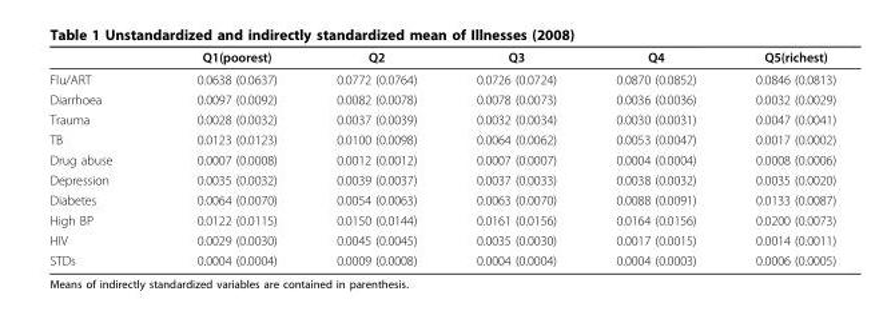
<table><thead><tr><td></td><td>Q1(poorest)</td><td>Q2</td><td>Q3</td><td>Q4</td><td>Q5(richest)</td></tr></thead><tbody><tr><td>Flu/ART</td><td>0.0638 (0.0637)</td><td>0.0772 (0.0764)</td><td>0.0726 (0.0724)</td><td>0.0870 (0.0852)</td><td>0.0846 (0.0813)</td></tr><tr><td>Diarrhoea</td><td>0.0097 (0.0092)</td><td>0.0082 (0.0078)</td><td>0.0078 (0.0073)</td><td>0.0036 (0.0036)</td><td>0.0032 (0.0029)</td></tr><tr><td>Trauma</td><td>0.0028 (0.0032)</td><td>0.0037 (0.0039)</td><td>0.0032 (0.0034)</td><td>0.0030 (0.0031)</td><td>0.0047 (0.0041)</td></tr><tr><td>TB</td><td>0.0123 (0.0123)</td><td>0.0100 (0.0098)</td><td>0.0064 (0.0062)</td><td>0.0053 (0.0047)</td><td>0.0017 (0.0002)</td></tr><tr><td>Drug abuse</td><td>0.0007 (0.0008)</td><td>0.0012 (0.0012)</td><td>0.0007 (0.0007)</td><td>0.0004 (0.0004)</td><td>0.0008 (0.0006)</td></tr><tr><td>Depression</td><td>0.0035 (0.0032)</td><td>0.0039 (0.0037)</td><td>0.0037 (0.0033)</td><td>0.0038 (0.0032)</td><td>0.0035 (0.0020)</td></tr><tr><td>Diabetes</td><td>0.0064 (0.0070)</td><td>0.0054 (0.0063)</td><td>0.0063 (0.0070)</td><td>0.0088 (0.0091)</td><td>0.0133 (0.0087)</td></tr><tr><td>High BP</td><td>0.0122 (0.0115)</td><td>0.0150 (0.0144)</td><td>0.0161 (0.0156)</td><td>0.0164 (0.0156)</td><td>0.0200 (0.0073)</td></tr><tr><td>HIV</td><td>0.0029 (0.0030)</td><td>0.0045 (0.0045)</td><td>0.0035 (0.0030)</td><td>0.0017 (0.0015)</td><td>0.0014 (0.0011)</td></tr><tr><td>STDs</td><td>0.0004 (0.0004)</td><td>0.0009 (0.0008)</td><td>0.0004 (0.0004)</td><td>0.0004 (0.0003)</td><td>0.0006 (0.0005)</td></tr></tbody></table>